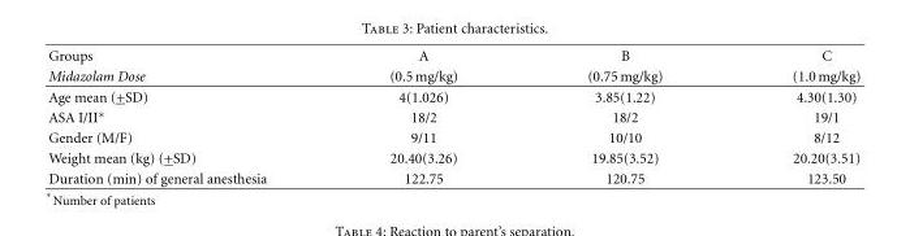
<table><thead><tr><td rowspan="2">Groups Midazolam Dose</td><td rowspan="2">A (0.5 mg/kg)</td><td rowspan="2">B (0.75 mg/kg)</td><td rowspan="2">C (1.0 mg/kg)</td></tr><tr></tr></thead><tbody><tr><td>Age mean (+SD)</td><td>4(1.026)</td><td>3.85(1.22)</td><td>4.30(1.30)</td></tr><tr><td>ASA I/II∗</td><td>18/2</td><td>18/2</td><td>19/1</td></tr><tr><td>Gender (M/F)</td><td>9/11</td><td>10/10</td><td>8/12</td></tr><tr><td>Weight mean (kg) (+SD)</td><td>20.40(3.26)</td><td>19.85(3.52)</td><td>20.20(3.51)</td></tr><tr><td>Duration (min) of general anesthesia</td><td>122.75</td><td>120.75</td><td>123.50</td></tr></tbody></table>